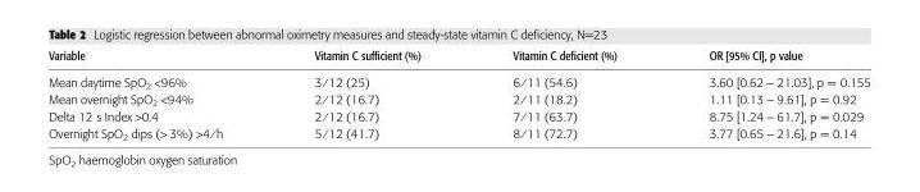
<table><thead><tr><td>Variable</td><td>Vitamin C sufficient (%)</td><td>Vitamin C deficient (%)</td><td>OR [95% CI], p value</td></tr></thead><tbody><tr><td>Mean daytime SpO<sub>2</sub> &lt;96%</td><td>3 ⁄ 12 (25)</td><td>6 ⁄ 11 (54.6)</td><td>3.60 [0.62 – 21.03], p = 0.155</td></tr><tr><td>Mean overnight SpO<sub>2</sub> &lt;94%</td><td>2 ⁄ 12 (16.7)</td><td>2 ⁄ 11 (18.2)</td><td>1.11 [0.13 – 9.61], p = 0.92</td></tr><tr><td>Delta 12 s Index &gt;0.4</td><td>2 ⁄ 12 (16.7)</td><td>7 ⁄ 11 (63.7)</td><td>8.75 [1.24 – 61.7], p = 0.029</td></tr><tr><td>Overnight SpO2 dips (&gt; 3%) &gt;4 ⁄ h</td><td>5 ⁄ 12 (41.7)</td><td>8 ⁄ 11 (72.7)</td><td>3.77 [0.65 – 21.6], p = 0.14</td></tr></tbody></table>